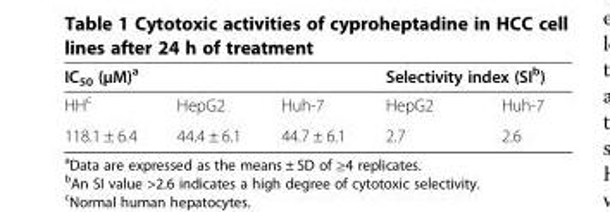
<table><thead><tr><td colspan="3">IC<sub>50</sub> (µM)<sup>a</sup></td><td colspan="2">Selectivity index (SI<sup>b</sup>)</td></tr><tr><td>HH<sup>c</sup></td><td>HepG2</td><td>Huh-7</td><td>HepG2</td><td>Huh-7</td></tr></thead><tbody><tr><td>118.1 ± 6.4</td><td>44.4 ± 6.1</td><td>44.7 ± 6.1</td><td>2.7</td><td>2.6</td></tr></tbody></table>